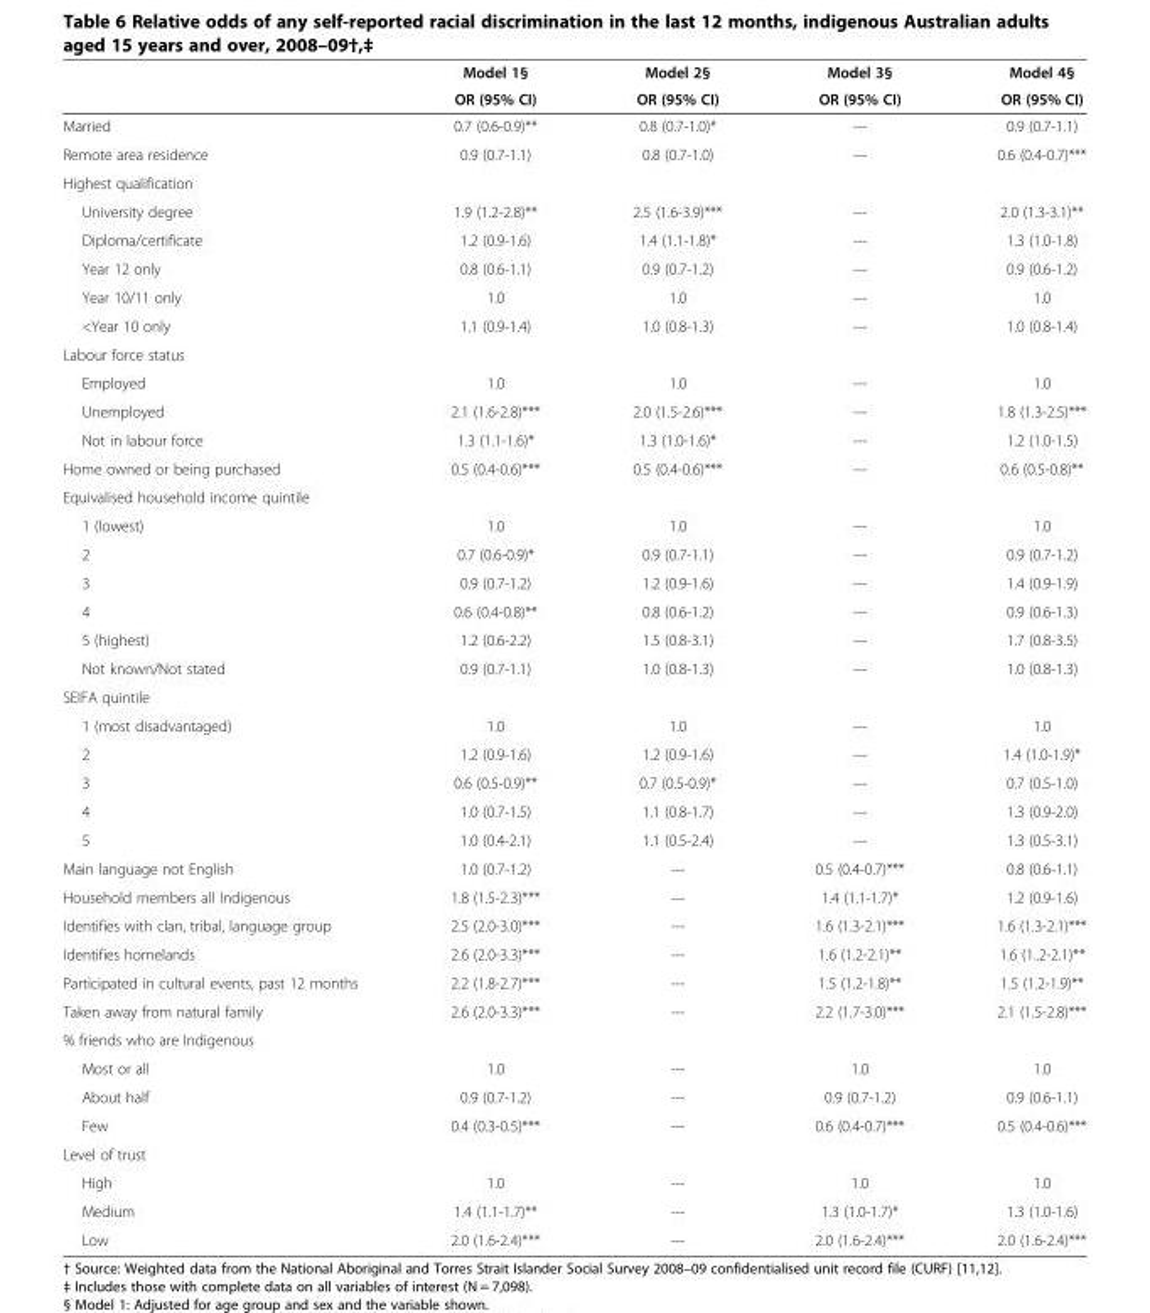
<table><thead><tr><td rowspan="2"></td><td rowspan="2">Model 1§ OR (95% CI)</td><td rowspan="2">Model 2§ OR (95% CI)</td><td rowspan="2">Model 3§ OR (95% CI)</td><td rowspan="2">Model 4§ OR (95% CI)</td></tr><tr></tr></thead><tbody><tr><td>Married</td><td>0.7 (0.6-0.9)**</td><td>0.8 (0.7-1.0)*</td><td>---</td><td>0.9 (0.7-1.1)</td></tr><tr><td>Remote area residence</td><td>0.9 (0.7-1.1)</td><td>0.8 (0.7-1.0)</td><td>---</td><td>0.6 (0.4-0.7)***</td></tr><tr><td colspan="5">Highest qualification</td></tr><tr><td>University degree</td><td>1.9 (1.2-2.8)**</td><td>2.5 (1.6-3.9)***</td><td>---</td><td>2.0 (1.3-3.1)**</td></tr><tr><td>Diploma/certificate</td><td>1.2 (0.9-1.6)</td><td>1.4 (1.1-1.8)*</td><td>---</td><td>1.3 (1.0-1.8)</td></tr><tr><td>Year 12 only</td><td>0.8 (0.6-1.1)</td><td>0.9 (0.7-1.2)</td><td>---</td><td>0.9 (0.6-1.2)</td></tr><tr><td>Year 10/11 only</td><td>1.0</td><td>1.0</td><td>---</td><td>1.0</td></tr><tr><td>&lt;Year 10 only</td><td>1.1 (0.9-1.4)</td><td>1.0 (0.8-1.3)</td><td>---</td><td>1.0 (0.8-1.4)</td></tr><tr><td colspan="5">Labour force status</td></tr><tr><td>Employed</td><td>1.0</td><td>1.0</td><td>---</td><td>1.0</td></tr><tr><td>Unemployed</td><td>2.1 (1.6-2.8)***</td><td>2.0 (1.5-2.6)***</td><td>---</td><td>1.8 (1.3-2.5)***</td></tr><tr><td>Not in labour force</td><td>1.3 (1.1-1.6)*</td><td>1.3 (1.0-1.6)*</td><td>---</td><td>1.2 (1.0-1.5)</td></tr><tr><td>Home owned or being purchased</td><td>0.5 (0.4-0.6)***</td><td>0.5 (0.4-0.6)***</td><td>---</td><td>0.6 (0.5-0.8)**</td></tr><tr><td colspan="5">Equivalised household income quintile</td></tr><tr><td>1 (lowest)</td><td>1.0</td><td>1.0</td><td>---</td><td>1.0</td></tr><tr><td>2</td><td>0.7 (0.6-0.9)*</td><td>0.9 (0.7-1.1)</td><td>---</td><td>0.9 (0.7-1.2)</td></tr><tr><td>3</td><td>0.9 (0.7-1.2)</td><td>1.2 (0.9-1.6)</td><td>---</td><td>1.4 (0.9-1.9)</td></tr><tr><td>4</td><td>0.6 (0.4-0.8)**</td><td>0.8 (0.6-1.2)</td><td>---</td><td>0.9 (0.6-1.3)</td></tr><tr><td>5 (highest)</td><td>1.2 (0.6-2.2)</td><td>1.5 (0.8-3.1)</td><td>---</td><td>1.7 (0.8-3.5)</td></tr><tr><td>Not known/Not stated</td><td>0.9 (0.7-1.1)</td><td>1.0 (0.8-1.3)</td><td>---</td><td>1.0 (0.8-1.3)</td></tr><tr><td colspan="5">SEIFA quintile</td></tr><tr><td>1 (most disadvantaged)</td><td>1.0</td><td>1.0</td><td>---</td><td>1.0</td></tr><tr><td>2</td><td>1.2 (0.9-1.6)</td><td>1.2 (0.9-1.6)</td><td>---</td><td>1.4 (1.0-1.9)*</td></tr><tr><td>3</td><td>0.6 (0.5-0.9)**</td><td>0.7 (0.5-0.9)*</td><td>---</td><td>0.7 (0.5-1.0)</td></tr><tr><td>4</td><td>1.0 (0.7-1.5)</td><td>1.1 (0.8-1.7)</td><td>---</td><td>1.3 (0.9-2.0)</td></tr><tr><td>5</td><td>1.0 (0.4-2.1)</td><td>1.1 (0.5-2.4)</td><td>---</td><td>1.3 (0.5-3.1)</td></tr><tr><td>Main language not English</td><td>1.0 (0.7-1.2)</td><td>---</td><td>0.5 (0.4-0.7)***</td><td>0.8 (0.6-1.1)</td></tr><tr><td>Household members all Indigenous</td><td>1.8 (1.5-2.3)***</td><td>---</td><td>1.4 (1.1-1.7)*</td><td>1.2 (0.9-1.6)</td></tr><tr><td>Identifies with clan, tribal, language group</td><td>2.5 (2.0-3.0)***</td><td>---</td><td>1.6 (1.3-2.1)***</td><td>1.6 (1.3-2.1)***</td></tr><tr><td>Identifies homelands</td><td>2.6 (2.0-3.3)***</td><td>---</td><td>1.6 (1.2-2.1)**</td><td>1.6 (1..2-2.1)**</td></tr><tr><td>Participated in cultural events, past 12 months</td><td>2.2 (1.8-2.7)***</td><td>---</td><td>1.5 (1.2-1.8)**</td><td>1.5 (1.2-1.9)**</td></tr><tr><td>Taken away from natural family</td><td>2.6 (2.0-3.3)***</td><td>---</td><td>2.2 (1.7-3.0)***</td><td>2.1 (1.5-2.8)***</td></tr><tr><td colspan="5">% friends who are Indigenous</td></tr><tr><td>Most or all</td><td>1.0</td><td>---</td><td>1.0</td><td>1.0</td></tr><tr><td>About half</td><td>0.9 (0.7-1.2)</td><td>---</td><td>0.9 (0.7-1.2)</td><td>0.9 (0.6-1.1)</td></tr><tr><td>Few</td><td>0.4 (0.3-0.5)***</td><td>---</td><td>0.6 (0.4-0.7)***</td><td>0.5 (0.4-0.6)***</td></tr><tr><td colspan="5">Level of trust</td></tr><tr><td>High</td><td>1.0</td><td>---</td><td>1.0</td><td>1.0</td></tr><tr><td>Medium</td><td>1.4 (1.1-1.7)**</td><td>---</td><td>1.3 (1.0-1.7)*</td><td>1.3 (1.0-1.6)</td></tr><tr><td>Low</td><td>2.0 (1.6-2.4)***</td><td>---</td><td>2.0 (1.6-2.4)***</td><td>2.0 (1.6-2.4)***</td></tr></tbody></table>